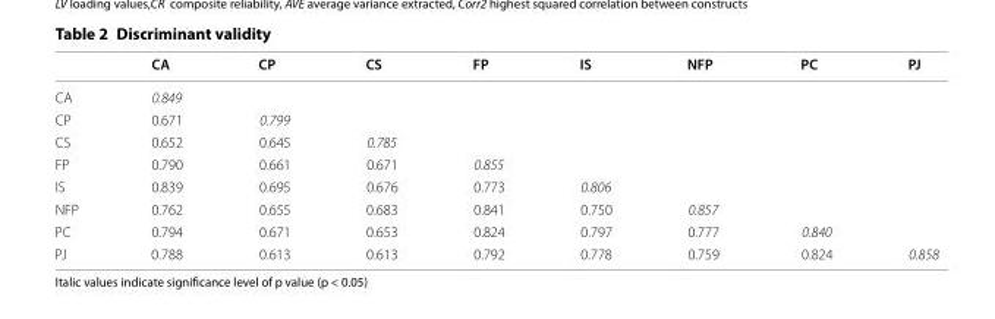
<table><thead><tr><td></td><td>CA</td><td>CP</td><td>CS</td><td>FP</td><td>IS</td><td>NFP</td><td>PC</td><td>PJ</td></tr></thead><tbody><tr><td>CA</td><td>0.849</td><td></td><td></td><td></td><td></td><td></td><td></td><td></td></tr><tr><td>CP</td><td>0.671</td><td>0.799</td><td></td><td></td><td></td><td></td><td></td><td></td></tr><tr><td>CS</td><td>0.652</td><td>0.645</td><td>0.785</td><td></td><td></td><td></td><td></td><td></td></tr><tr><td>FP</td><td>0.790</td><td>0.661</td><td>0.671</td><td>0.855</td><td></td><td></td><td></td><td></td></tr><tr><td>IS</td><td>0.839</td><td>0.695</td><td>0.676</td><td>0.773</td><td>0.806</td><td></td><td></td><td></td></tr><tr><td>NFP</td><td>0.762</td><td>0.655</td><td>0.683</td><td>0.841</td><td>0.750</td><td>0.857</td><td></td><td></td></tr><tr><td>PC</td><td>0.794</td><td>0.671</td><td>0.653</td><td>0.824</td><td>0.797</td><td>0.777</td><td>0.840</td><td></td></tr><tr><td>PJ</td><td>0.788</td><td>0.613</td><td>0.613</td><td>0.792</td><td>0.778</td><td>0.759</td><td>0.824</td><td>0.858</td></tr></tbody></table>